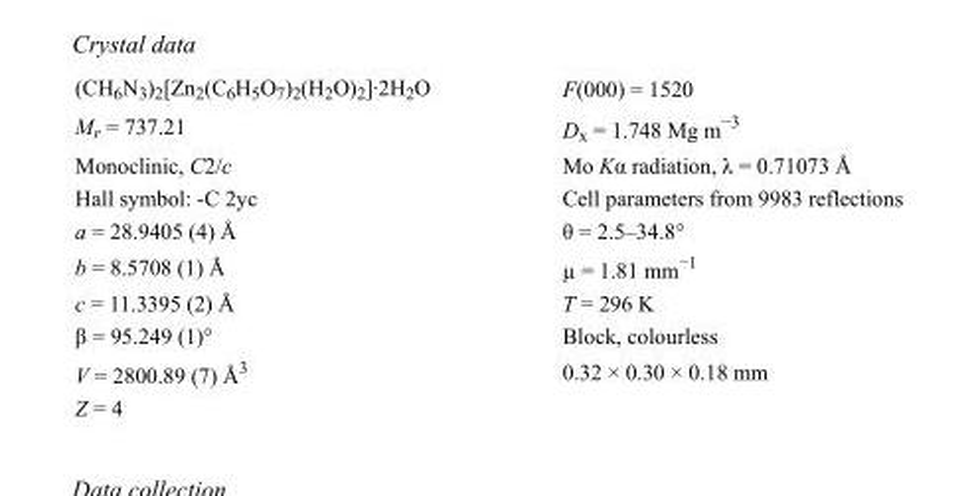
<table><tbody><tr><td>(CH<sub>6</sub>N<sub>3</sub>)<sub>2</sub>[Zn<sub>2</sub>(C<sub>6</sub>H<sub>5</sub>O<sub>7</sub>)<sub>2</sub>(H<sub>2</sub>O)<sub>2</sub>]·2H<sub>2</sub>O</td><td>F(000) = 1520</td></tr><tr><td>M<sub>r</sub> = 737.21</td><td>D<sub>x</sub> = 1.748 Mg m<sup>−3</sup></td></tr><tr><td>Monoclinic, C2/c</td><td>Mo Kα radiation, λ = 0.71073 Å</td></tr><tr><td>Hall symbol: -C 2yc</td><td>Cell parameters from 9983 reflections</td></tr><tr><td>a = 28.9405 (4) Å</td><td>θ = 2.5–34.8°</td></tr><tr><td>b = 8.5708 (1) Å</td><td>µ = 1.81 mm<sup>−1</sup></td></tr><tr><td>c = 11.3395 (2) Å</td><td>T = 296 K</td></tr><tr><td>β = 95.249 (1)°</td><td>Block, colourless</td></tr><tr><td>V = 2800.89 (7) Å<sup>3</sup></td><td>0.32 × 0.30 × 0.18 mm</td></tr><tr><td>Z = 4</td><td></td></tr></tbody></table>